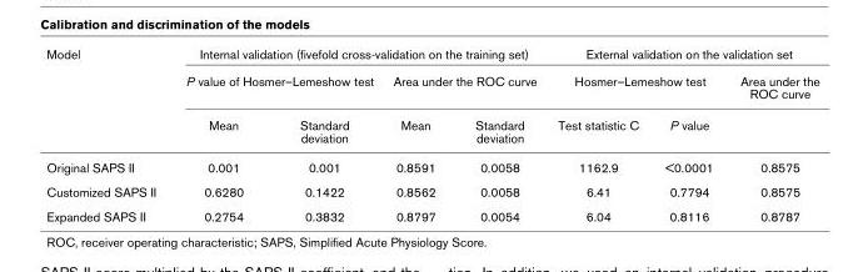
<table><thead><tr><td rowspan="3">Model</td><td colspan="4">Internal validation (fivefold cross-validation on the training set)</td><td colspan="3">External validation on the validation set</td></tr><tr><td colspan="2">P value of Hosmer–Lemeshow test</td><td colspan="2">Area under the ROC curve</td><td colspan="2">Hosmer–Lemeshow test</td><td rowspan="2">Area under the ROC curve</td></tr><tr><td>Mean</td><td>Standard deviation</td><td>Mean</td><td>Standard deviation</td><td>Test statistic C</td><td>P value</td></tr></thead><tbody><tr><td>Original SAPS II</td><td>0.001</td><td>0.001</td><td>0.8591</td><td>0.0058</td><td>1162.9</td><td>&lt;0.0001</td><td>0.8575</td></tr><tr><td>Customized SAPS II</td><td>0.6280</td><td>0.1422</td><td>0.8562</td><td>0.0058</td><td>6.41</td><td>0.7794</td><td>0.8575</td></tr><tr><td>Expanded SAPS II</td><td>0.2754</td><td>0.3832</td><td>0.8797</td><td>0.0054</td><td>6.04</td><td>0.8116</td><td>0.8787</td></tr></tbody></table>